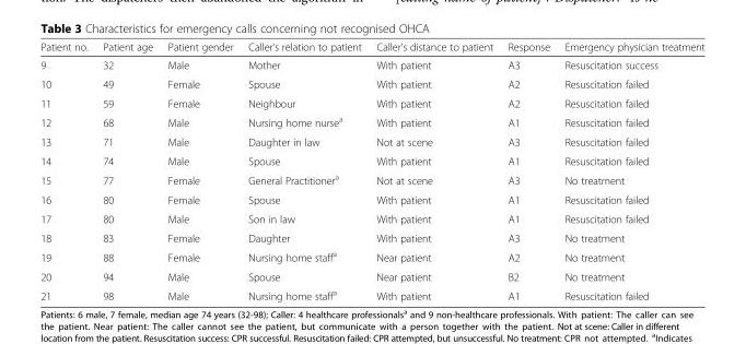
<table><thead><tr><td>Patient no.</td><td>Patient age</td><td>Patient gender</td><td>Caller&#x27;s relation to patient</td><td>Caller&#x27;s distance to patient</td><td>Response</td><td>Emergency physician treatment</td></tr></thead><tbody><tr><td>9</td><td>32</td><td>Male</td><td>Mother</td><td>With patient</td><td>A3</td><td>Resuscitation success</td></tr><tr><td>10</td><td>49</td><td>Female</td><td>Spouse</td><td>With patient</td><td>A2</td><td>Resuscitation failed</td></tr><tr><td>11</td><td>59</td><td>Female</td><td>Neighbour</td><td>With patient</td><td>A2</td><td>Resuscitation failed</td></tr><tr><td>12</td><td>68</td><td>Male</td><td>Nursing home nurse<sup>a</sup></td><td>With patient</td><td>A1</td><td>Resuscitation failed</td></tr><tr><td>13</td><td>71</td><td>Male</td><td>Daughter in law</td><td>Not at scene</td><td>A3</td><td>Resuscitation failed</td></tr><tr><td>14</td><td>74</td><td>Male</td><td>Spouse</td><td>With patient</td><td>A1</td><td>Resuscitation failed</td></tr><tr><td>15</td><td>77</td><td>Female</td><td>General Practitioner<sup>a</sup></td><td>Not at scene</td><td>A3</td><td>No treatment</td></tr><tr><td>16</td><td>80</td><td>Female</td><td>Spouse</td><td>With patient</td><td>A1</td><td>Resuscitation failed</td></tr><tr><td>17</td><td>80</td><td>Male</td><td>Son in law</td><td>With patient</td><td>A1</td><td>Resuscitation failed</td></tr><tr><td>18</td><td>83</td><td>Female</td><td>Daughter</td><td>With patient</td><td>A3</td><td>No treatment</td></tr><tr><td>19</td><td>88</td><td>Female</td><td>Nursing home staff<sup>a</sup></td><td>Near patient</td><td>A2</td><td>No treatment</td></tr><tr><td>20</td><td>94</td><td>Male</td><td>Spouse</td><td>Near patient</td><td>B2</td><td>No treatment</td></tr><tr><td>21</td><td>98</td><td>Male</td><td>Nursing home staff<sup>a</sup></td><td>With patient</td><td>A1</td><td>Resuscitation failed</td></tr></tbody></table>